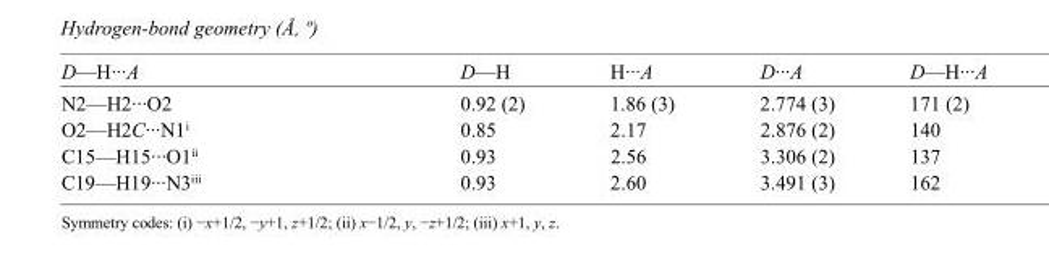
<table><tbody><tr><td>D—H···A</td><td>D—H</td><td>H···A</td><td>D···A</td><td>D—H···A</td></tr><tr><td>N2—H2···O2</td><td>0.92 (2)</td><td>1.86 (3)</td><td>2.774 (3)</td><td>171 (2)</td></tr><tr><td>O2—H2C···N1<sup>i</sup></td><td>0.85</td><td>2.17</td><td>2.876 (2)</td><td>140</td></tr><tr><td>C15—H15···O1<sup>ii</sup></td><td>0.93</td><td>2.56</td><td>3.306 (2)</td><td>137</td></tr><tr><td>C19—H19···N3<sup>iii</sup></td><td>0.93</td><td>2.60</td><td>3.491 (3)</td><td>162</td></tr></tbody></table>